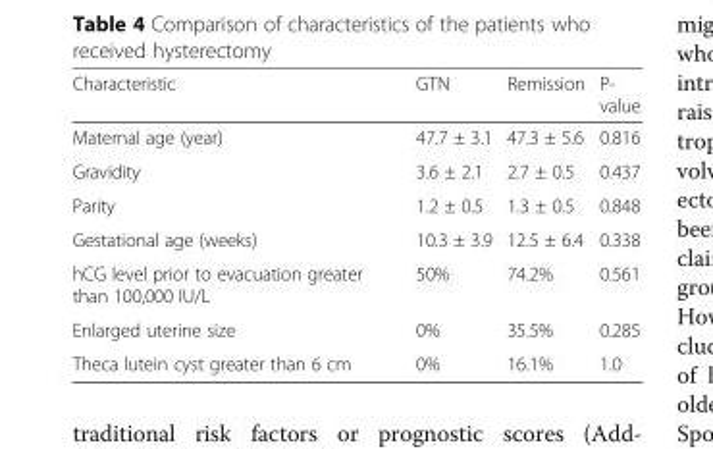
<table><thead><tr><td>Characteristic</td><td>GTN</td><td>Remission</td><td>P- value</td></tr></thead><tbody><tr><td>Maternal age (year)</td><td>47.7 ± 3.1</td><td>47.3 ± 5.6</td><td>0.816</td></tr><tr><td>Gravidity</td><td>3.6 ± 2.1</td><td>2.7 ± 0.5</td><td>0.437</td></tr><tr><td>Parity</td><td>1.2 ± 0.5</td><td>1.3 ± 0.5</td><td>0.848</td></tr><tr><td>Gestational age (weeks)</td><td>10.3 ± 3.9</td><td>12.5 ± 6.4</td><td>0.338</td></tr><tr><td>hCG level prior to evacuation greater than 100,000 IU/L</td><td>50%</td><td>74.2%</td><td>0.561</td></tr><tr><td>Enlarged uterine size</td><td>0%</td><td>35.5%</td><td>0.285</td></tr><tr><td>Theca lutein cyst greater than 6 cm</td><td>0%</td><td>16.1%</td><td>1.0</td></tr></tbody></table>